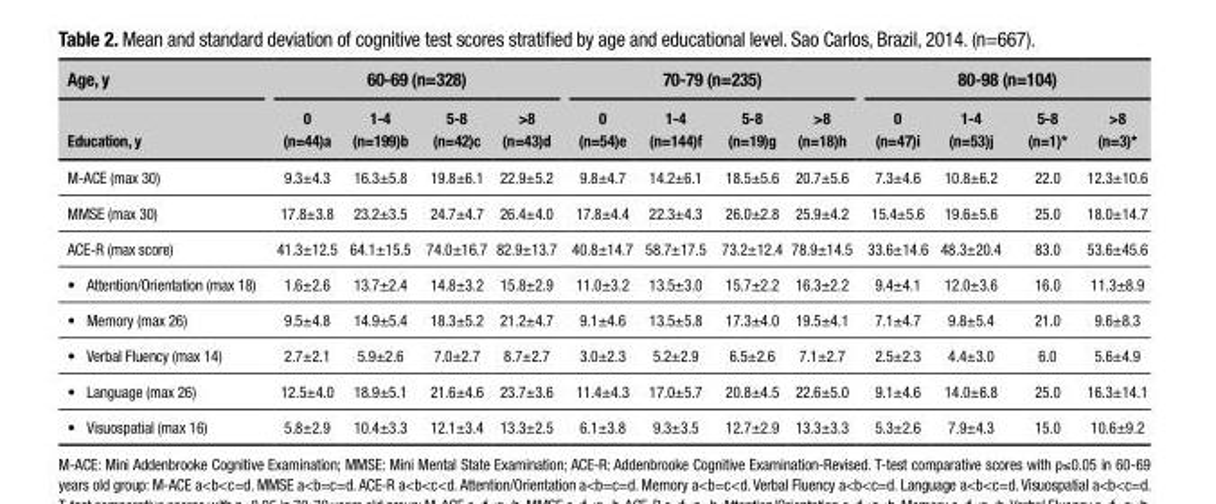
<table><thead><tr><td rowspan="2">Age, y Education, y</td><td colspan="4">60-69 (n=328)</td><td colspan="4">70-79 (n=235)</td><td colspan="4">80-98 (n=104)</td></tr><tr><td>0 (n=44)a</td><td>1-4 (n=199)b</td><td>5-8 (n=42)c</td><td>&gt;8 (n=43)d</td><td>0 (n=54)e</td><td>1-4 (n=144)f</td><td>5-8 (n=19)g</td><td>&gt;8 (n=18)h</td><td>0 (n=47)i</td><td>1-4 (n=53)j</td><td>5-8 (n=1)*</td><td>&gt;8 (n=3)*</td></tr></thead><tbody><tr><td>M-ACE (max 30)</td><td>9.3±4.3</td><td>16.3±5.8</td><td>19.8±6.1</td><td>22.9±5.2</td><td>9.8±4.7</td><td>14.2±6.1</td><td>18.5±5.6</td><td>20.7±5.6</td><td>7.3±4.6</td><td>10.8±6.2</td><td>22.0</td><td>12.3±10.6</td></tr><tr><td>MMSE (max 30)</td><td>17.8±3.8</td><td>23.2±3.5</td><td>24.7±4.7</td><td>26.4±4.0</td><td>17.8±4.4</td><td>22.3±4.3</td><td>26.0±2.8</td><td>25.9±4.2</td><td>15.4±5.6</td><td>19.6±5.6</td><td>25.0</td><td>18.0±14.7</td></tr><tr><td>ACE-R (max score)</td><td>41.3±12.5</td><td>64.1±15.5</td><td>74.0±16.7</td><td>82.9±13.7</td><td>40.8±14.7</td><td>58.7±17.5</td><td>73.2±12.4</td><td>78.9±14.5</td><td>33.6±14.6</td><td>48.3±20.4</td><td>83.0</td><td>53.6±45.6</td></tr><tr><td>• Attention/Orientation (max 18)</td><td>1.6±2.6</td><td>13.7±2.4</td><td>14.8±3.2</td><td>15.8±2.9</td><td>11.0±3.2</td><td>13.5±3.0</td><td>15.7±2.2</td><td>16.3±2.2</td><td>9.4±4.1</td><td>12.0±3.6</td><td>16.0</td><td>11.3±8.9</td></tr><tr><td>• Memory (max 26)</td><td>9.5±4.8</td><td>14.9±5.4</td><td>18.3±5.2</td><td>21.2±4.7</td><td>9.1±4.6</td><td>13.5±5.8</td><td>17.3±4.0</td><td>19.5±4.1</td><td>7.1±4.7</td><td>9.8±5.4</td><td>21.0</td><td>9.6±8.3</td></tr><tr><td>• Verbal Fluency (max 14)</td><td>2.7±2.1</td><td>5.9±2.6</td><td>7.0±2.7</td><td>8.7±2.7</td><td>3.0±2.3</td><td>5.2±2.9</td><td>6.5±2.6</td><td>7.1±2.7</td><td>2.5±2.3</td><td>4.4±3.0</td><td>6.0</td><td>5.6±4.9</td></tr><tr><td>• Language (max 26)</td><td>12.5±4.0</td><td>18.9±5.1</td><td>21.6±4.6</td><td>23.7±3.6</td><td>11.4±4.3</td><td>17.0±5.7</td><td>20.8±4.5</td><td>22.6±5.0</td><td>9.1±4.6</td><td>14.0±6.8</td><td>25.0</td><td>16.3±14.1</td></tr><tr><td>• Visuospatial (max 16)</td><td>5.8±2.9</td><td>10.4±3.3</td><td>12.1±3.4</td><td>13.3±2.5</td><td>6.1±3.8</td><td>9.3±3.5</td><td>12.7±2.9</td><td>13.3±3.3</td><td>5.3±2.6</td><td>7.9±4.3</td><td>15.0</td><td>10.6±9.2</td></tr></tbody></table>